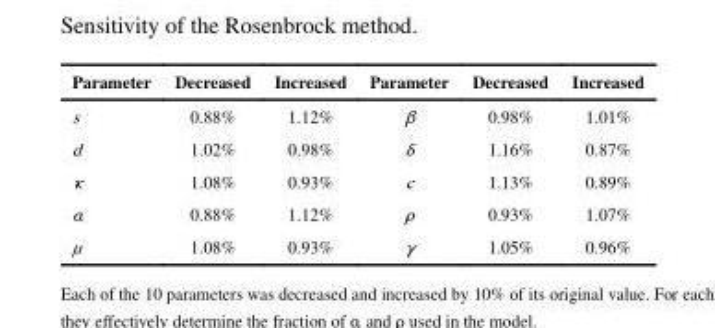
<table><thead><tr><td>Parameter</td><td>Decreased</td><td>Increased</td><td>Parameter</td><td>Decreased</td><td>Increased</td></tr></thead><tbody><tr><td>s</td><td>0.88%</td><td>1.12%</td><td>β</td><td>0.98%</td><td>1.01%</td></tr><tr><td>d</td><td>1.02%</td><td>0.98%</td><td>δ</td><td>1.16%</td><td>0.87%</td></tr><tr><td>κ</td><td>1.08%</td><td>0.93%</td><td>c</td><td>1.13%</td><td>0.89%</td></tr><tr><td>α</td><td>0.88%</td><td>1.12%</td><td>ρ</td><td>0.93%</td><td>1.07%</td></tr><tr><td>μ</td><td>1.08%</td><td>0.93%</td><td>γ</td><td>1.05%</td><td>0.96%</td></tr></tbody></table>